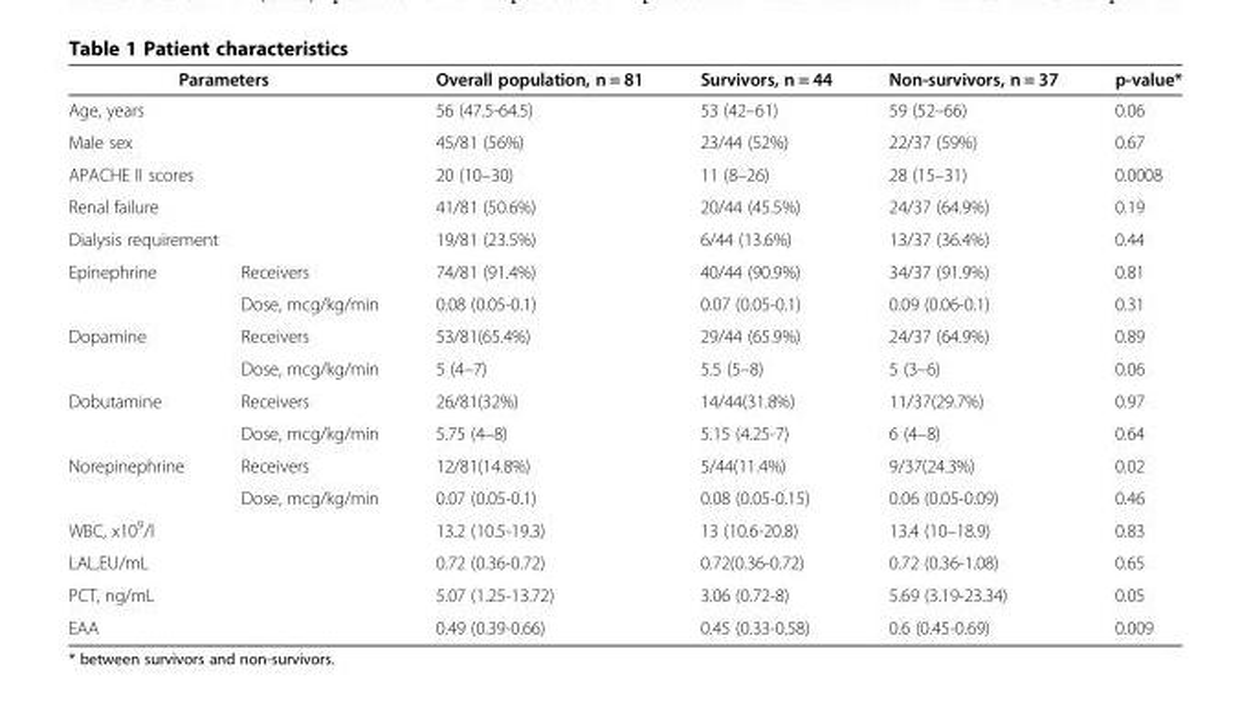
<table><thead><tr><td colspan="2">Parameters</td><td>Overall population, n = 81</td><td>Survivors, n = 44</td><td>Non-survivors, n = 37</td><td>p-value*</td></tr></thead><tbody><tr><td colspan="2">Age, years</td><td>56 (47.5-64.5)</td><td>53 (42–61)</td><td>59 (52–66)</td><td>0.06</td></tr><tr><td colspan="2">Male sex</td><td>45/81 (56%)</td><td>23/44 (52%)</td><td>22/37 (59%)</td><td>0.67</td></tr><tr><td colspan="2">APACHE II scores</td><td>20 (10–30)</td><td>11 (8–26)</td><td>28 (15–31)</td><td>0.0008</td></tr><tr><td colspan="2">Renal failure</td><td>41/81 (50.6%)</td><td>20/44 (45.5%)</td><td>24/37 (64.9%)</td><td>0.19</td></tr><tr><td colspan="2">Dialysis requirement</td><td>19/81 (23.5%)</td><td>6/44 (13.6%)</td><td>13/37 (36.4%)</td><td>0.44</td></tr><tr><td rowspan="2">Epinephrine</td><td>Receivers</td><td>74/81 (91.4%)</td><td>40/44 (90.9%)</td><td>34/37 (91.9%)</td><td>0.81</td></tr><tr><td>Dose, mcg/kg/min</td><td>0.08 (0.05-0.1)</td><td>0.07 (0.05-0.1)</td><td>0.09 (0.06-0.1)</td><td>0.31</td></tr><tr><td rowspan="2">Dopamine</td><td>Receivers</td><td>53/81(65.4%)</td><td>29/44 (65.9%)</td><td>24/37 (64.9%)</td><td>0.89</td></tr><tr><td>Dose, mcg/kg/min</td><td>5 (4–7)</td><td>5.5 (5–8)</td><td>5 (3–6)</td><td>0.06</td></tr><tr><td rowspan="2">Dobutamine</td><td>Receivers</td><td>26/81(32%)</td><td>14/44(31.8%)</td><td>11/37(29.7%)</td><td>0.97</td></tr><tr><td>Dose, mcg/kg/min</td><td>5.75 (4–8)</td><td>5.15 (4.25-7)</td><td>6 (4–8)</td><td>0.64</td></tr><tr><td rowspan="2">Norepinephrine</td><td>Receivers</td><td>12/81(14.8%)</td><td>5/44(11.4%)</td><td>9/37(24.3%)</td><td>0.02</td></tr><tr><td>Dose, mcg/kg/min</td><td>0.07 (0.05-0.1)</td><td>0.08 (0.05-0.15)</td><td>0.06 (0.05-0.09)</td><td>0.46</td></tr><tr><td colspan="2">WBC, х10<sup>9</sup>/l</td><td>13.2 (10.5-19.3)</td><td>13 (10.6-20.8)</td><td>13.4 (10–18.9)</td><td>0.83</td></tr><tr><td colspan="2">LAL,EU/mL</td><td>0.72 (0.36-0.72)</td><td>0.72(0.36-0.72)</td><td>0.72 (0.36-1.08)</td><td>0.65</td></tr><tr><td colspan="2">РСТ, ng/mL</td><td>5.07 (1.25-13.72)</td><td>3.06 (0.72-8)</td><td>5.69 (3.19-23.34)</td><td>0.05</td></tr><tr><td colspan="2">ЕАА</td><td>0.49 (0.39-0.66)</td><td>0.45 (0.33-0.58)</td><td>0.6 (0.45-0.69)</td><td>0.009</td></tr></tbody></table>